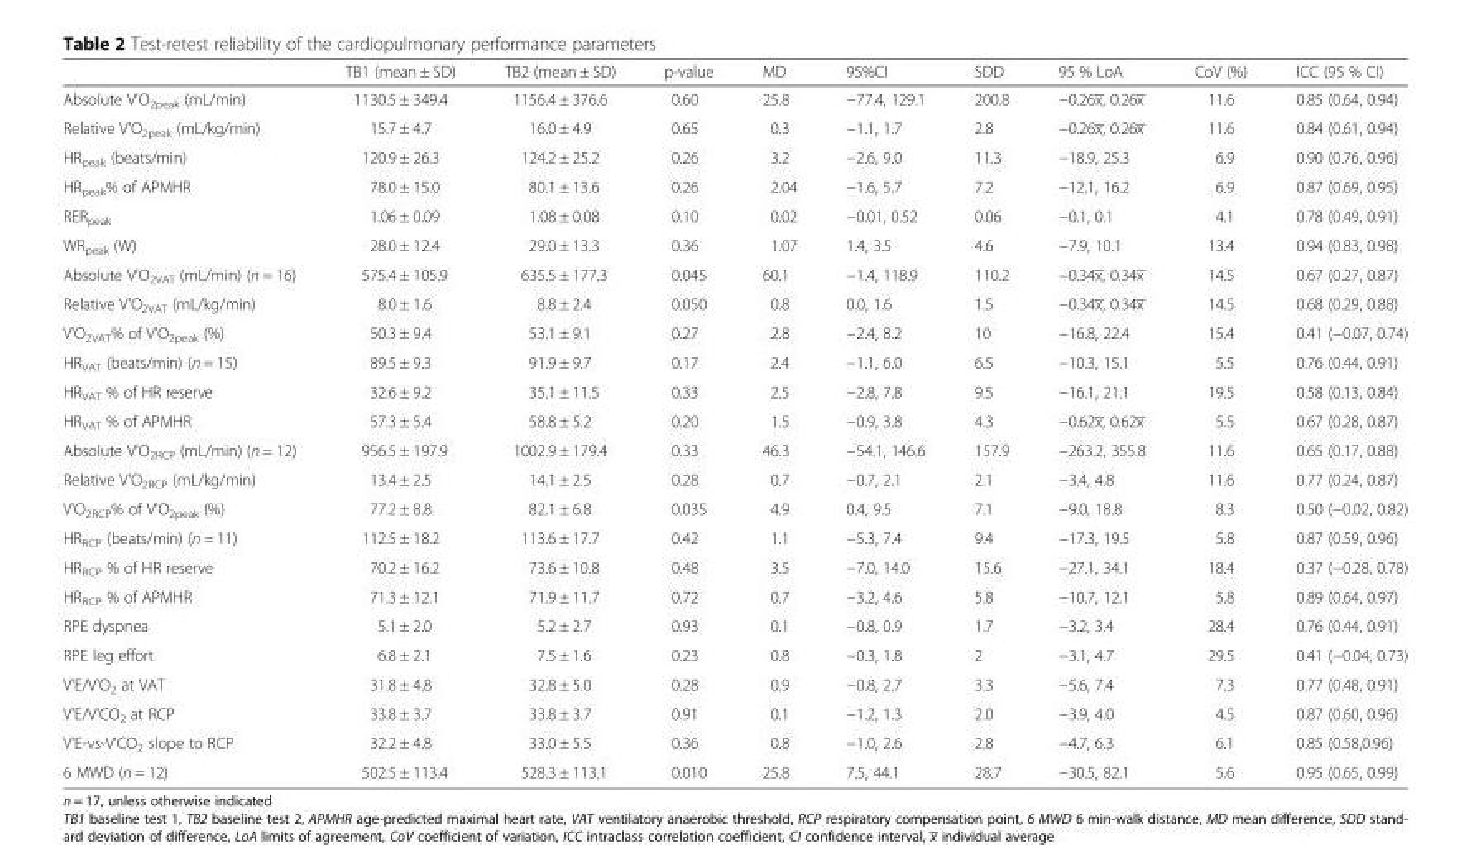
<table><thead><tr><td></td><td>TB1 (mean ± SD)</td><td>TB2 (mean ± SD)</td><td>p-value</td><td>MD</td><td>95%CI</td><td>SDD</td><td>95 % LoA</td><td>CoV (%)</td><td>ICC (95 % CI)</td></tr></thead><tbody><tr><td>Absolute V&#x27;O<sub>2peak</sub> (mL/min)</td><td>1130.5 ± 349.4</td><td>1156.4 ± 376.6</td><td>0.60</td><td>25.8</td><td>−77.4, 129.1</td><td>200.8</td><td>−0.26x̄, 0.26x̄</td><td>11.6</td><td>0.85 (0.64, 0.94)</td></tr><tr><td>Relative V&#x27;O<sub>2peak</sub> (mL/kg/min)</td><td>15.7 ± 4.7</td><td>16.0 ± 4.9</td><td>0.65</td><td>0.3</td><td>−1.1, 1.7</td><td>2.8</td><td>−0.26x̄, 0.26x̄</td><td>11.6</td><td>0.84 (0.61, 0.94)</td></tr><tr><td>HR<sub>peak</sub> (beats/min)</td><td>120.9 ± 26.3</td><td>124.2 ± 25.2</td><td>0.26</td><td>3.2</td><td>−2.6, 9.0</td><td>11.3</td><td>−18.9, 25.3</td><td>6.9</td><td>0.90 (0.76, 0.96)</td></tr><tr><td>HR<sub>peak</sub>% of APMHR</td><td>78.0 ± 15.0</td><td>80.1 ± 13.6</td><td>0.26</td><td>2.04</td><td>−1.6, 5.7</td><td>7.2</td><td>−12.1, 16.2</td><td>6.9</td><td>0.87 (0.69, 0.95)</td></tr><tr><td>RER<sub>peak</sub></td><td>1.06 ± 0.09</td><td>1.08 ± 0.08</td><td>0.10</td><td>0.02</td><td>−0.01, 0.52</td><td>0.06</td><td>−0.1, 0.1</td><td>4.1</td><td>0.78 (0.49, 0.91)</td></tr><tr><td>WR<sub>peak</sub> (W)</td><td>28.0 ± 12.4</td><td>29.0 ± 13.3</td><td>0.36</td><td>1.07</td><td>1.4, 3.5</td><td>4.6</td><td>−7.9, 10.1</td><td>13.4</td><td>0.94 (0.83, 0.98)</td></tr><tr><td>Absolute V&#x27;O<sub>2VAT</sub> (mL/min) (n = 16)</td><td>575.4 ± 105.9</td><td>635.5 ± 177.3</td><td>0.045</td><td>60.1</td><td>−1.4, 118.9</td><td>110.2</td><td>−0.34x̄, 0.34x̄</td><td>14.5</td><td>0.67 (0.27, 0.87)</td></tr><tr><td>Relative V&#x27;O<sub>2VAT</sub> (mL/kg/min)</td><td>8.0 ± 1.6</td><td>8.8 ± 2.4</td><td>0.050</td><td>0.8</td><td>0.0, 1.6</td><td>1.5</td><td>−0.34x̄, 0.34x̄</td><td>14.5</td><td>0.68 (0.29, 0.88)</td></tr><tr><td>V&#x27;O<sub>2VAT</sub>% of V&#x27;O<sub>2peak</sub> (%)</td><td>50.3 ± 9.4</td><td>53.1 ± 9.1</td><td>0.27</td><td>2.8</td><td>−2.4, 8.2</td><td>10</td><td>−16.8, 22.4</td><td>15.4</td><td>0.41 (−0.07, 0.74)</td></tr><tr><td>HR<sub>VAT</sub> (beats/min) (n = 15)</td><td>89.5 ± 9.3</td><td>91.9 ± 9.7</td><td>0.17</td><td>2.4</td><td>−1.1, 6.0</td><td>6.5</td><td>−10.3, 15.1</td><td>5.5</td><td>0.76 (0.44, 0.91)</td></tr><tr><td>HR<sub>VAT</sub> % of HR reserve</td><td>32.6 ± 9.2</td><td>35.1 ± 11.5</td><td>0.33</td><td>2.5</td><td>−2.8, 7.8</td><td>9.5</td><td>−16.1, 21.1</td><td>19.5</td><td>0.58 (0.13, 0.84)</td></tr><tr><td>HR<sub>VAT</sub> % of APMHR</td><td>57.3 ± 5.4</td><td>58.8 ± 5.2</td><td>0.20</td><td>1.5</td><td>−0.9, 3.8</td><td>4.3</td><td>−0.62x̄, 0.62x̄</td><td>5.5</td><td>0.67 (0.28, 0.87)</td></tr><tr><td>Absolute V&#x27;O<sub>2RCP</sub> (mL/min) (n = 12)</td><td>956.5 ± 197.9</td><td>1002.9 ± 179.4</td><td>0.33</td><td>46.3</td><td>−54.1, 146.6</td><td>157.9</td><td>−263.2, 355.8</td><td>11.6</td><td>0.65 (0.17, 0.88)</td></tr><tr><td>Relative V&#x27;O<sub>2RCP</sub> (mL/kg/min)</td><td>13.4 ± 2.5</td><td>14.1 ± 2.5</td><td>0.28</td><td>0.7</td><td>−0.7, 2.1</td><td>2.1</td><td>−3.4, 4.8</td><td>11.6</td><td>0.77 (0.24, 0.87)</td></tr><tr><td>V&#x27;O<sub>2RCP</sub>% of V&#x27;O<sub>2peak</sub> (%)</td><td>77.2 ± 8.8</td><td>82.1 ± 6.8</td><td>0.035</td><td>4.9</td><td>0.4, 9.5</td><td>7.1</td><td>−9.0, 18.8</td><td>8.3</td><td>0.50 (−0.02, 0.82)</td></tr><tr><td>HR<sub>RCP</sub> (beats/min) (n = 11)</td><td>112.5 ± 18.2</td><td>113.6 ± 17.7</td><td>0.42</td><td>1.1</td><td>−5.3, 7.4</td><td>9.4</td><td>−17.3, 19.5</td><td>5.8</td><td>0.87 (0.59, 0.96)</td></tr><tr><td>HR<sub>RCP</sub> % of HR reserve</td><td>70.2 ± 16.2</td><td>73.6 ± 10.8</td><td>0.48</td><td>3.5</td><td>−7.0, 14.0</td><td>15.6</td><td>−27.1, 34.1</td><td>18.4</td><td>0.37 (−0.28, 0.78)</td></tr><tr><td>HR<sub>RCP</sub> % of APMHR</td><td>71.3 ± 12.1</td><td>71.9 ± 11.7</td><td>0.72</td><td>0.7</td><td>−3.2, 4.6</td><td>5.8</td><td>−10.7, 12.1</td><td>5.8</td><td>0.89 (0.64, 0.97)</td></tr><tr><td>RPE dyspnea</td><td>5.1 ± 2.0</td><td>5.2 ± 2.7</td><td>0.93</td><td>0.1</td><td>−0.8, 0.9</td><td>1.7</td><td>−3.2, 3.4</td><td>28.4</td><td>0.76 (0.44, 0.91)</td></tr><tr><td>RPE leg effort</td><td>6.8 ± 2.1</td><td>7.5 ± 1.6</td><td>0.23</td><td>0.8</td><td>−0.3, 1.8</td><td>2</td><td>−3.1, 4.7</td><td>29.5</td><td>0.41 (−0.04, 0.73)</td></tr><tr><td>V&#x27;E/V&#x27;O<sub>2</sub> at VAT</td><td>31.8 ± 4.8</td><td>32.8 ± 5.0</td><td>0.28</td><td>0.9</td><td>−0.8, 2.7</td><td>3.3</td><td>−5.6, 7.4</td><td>7.3</td><td>0.77 (0.48, 0.91)</td></tr><tr><td>V&#x27;E/V&#x27;CO<sub>2</sub> at RCP</td><td>33.8 ± 3.7</td><td>33.8 ± 3.7</td><td>0.91</td><td>0.1</td><td>−1.2, 1.3</td><td>2.0</td><td>−3.9, 4.0</td><td>4.5</td><td>0.87 (0.60, 0.96)</td></tr><tr><td>V&#x27;E-vs-V&#x27;CO<sub>2</sub> slope to RCP</td><td>32.2 ± 4.8</td><td>33.0 ± 5.5</td><td>0.36</td><td>0.8</td><td>−1.0, 2.6</td><td>2.8</td><td>−4.7, 6.3</td><td>6.1</td><td>0.85 (0.58,0.96)</td></tr><tr><td>6 MWD (n = 12)</td><td>502.5 ± 113.4</td><td>528.3 ± 113.1</td><td>0.010</td><td>25.8</td><td>7.5, 44.1</td><td>28.7</td><td>−30.5, 82.1</td><td>5.6</td><td>0.95 (0.65, 0.99)</td></tr></tbody></table>